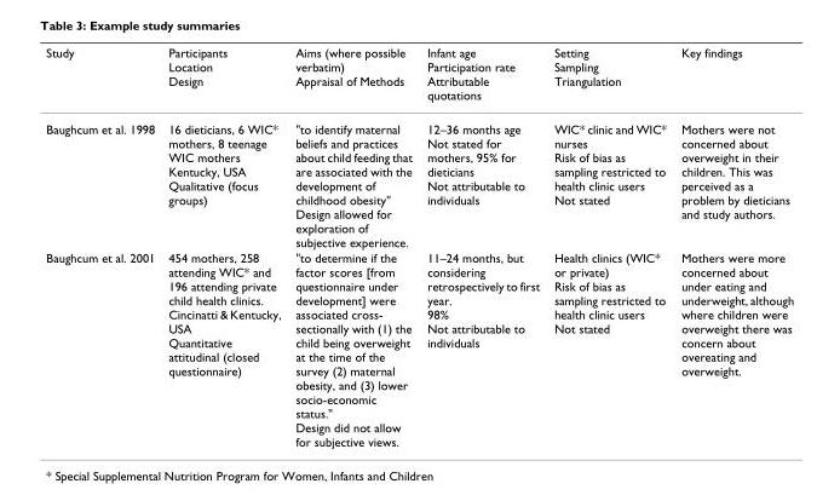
<table><thead><tr><td>Study</td><td>Participants Location Design</td><td>Aims (where possible verbatim) Appraisal of Methods</td><td>Infant age Participation rate Attributable quotations</td><td>Setting Sampling Triangulation</td><td>Key findings</td></tr></thead><tbody><tr><td>Baughcum et al. 1998</td><td>16 dieticians, 6 WIC* mothers, 8 teenage WIC mothers Kentucky, USA Qualitative (focus groups)</td><td>&quot;to identify maternal beliefs and practices about child feeding that are associated with the development of childhood obesity&quot; Design allowed for exploration of subjective experience.</td><td>12–36 months age Not stated for mothers, 95% for dieticians Not attributable to individuals</td><td>WIC* clinic and WIC* nurses Risk of bias as sampling restricted to health clinic users Not stated</td><td>Mothers were not concerned about overweight in their children. This was perceived as a problem by dieticians and study authors.</td></tr><tr><td>Baughcum et al. 2001</td><td>454 mothers, 258 attending WIC* and 196 attending private child health clinics. Cincinatti &amp; Kentucky, USA Quantitative attitudinal (closed questionnaire)</td><td>&quot;to determine if the factor scores [from questionnaire under development] were associated cross- sectionally with (1) the child being overweight at the time of the survey (2) maternal obesity, and (3) lower socio-economic status.&quot; Design did not allow for subjective views.</td><td>11–24 months, but considering retrospectively to first year. 98% Not attributable to individuals</td><td>Health clinics (WIC* or private) Risk of bias as sampling restricted to health clinic users Not stated</td><td>Mothers were more concerned about under eating and underweight, although where children were overweight there was concern about overeating and overweight.</td></tr></tbody></table>